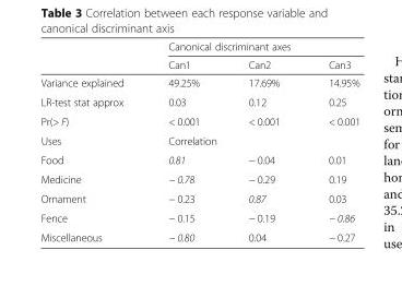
<table><thead><tr><td rowspan="2"></td><td colspan="3">Canonical discriminant axes</td></tr><tr><td>Can1</td><td>Can2</td><td>Can3</td></tr></thead><tbody><tr><td>Variance explained</td><td>49.25%</td><td>17.69%</td><td>14.95%</td></tr><tr><td>LR-test stat approx</td><td>0.03</td><td>0.12</td><td>0.25</td></tr><tr><td>Pr(&gt; F)</td><td>&lt; 0.001</td><td>&lt; 0.001</td><td>&lt; 0.001</td></tr><tr><td>Uses</td><td colspan="3">Correlation</td></tr><tr><td>Food</td><td>0.81</td><td>− 0.04</td><td>0.01</td></tr><tr><td>Medicine</td><td>− 0.78</td><td>− 0.29</td><td>0.19</td></tr><tr><td>Ornament</td><td>− 0.23</td><td>0.87</td><td>0.03</td></tr><tr><td>Fence</td><td>− 0.15</td><td>− 0.19</td><td>− 0.86</td></tr><tr><td>Miscellaneous</td><td>− 0.80</td><td>0.04</td><td>− 0.27</td></tr></tbody></table>